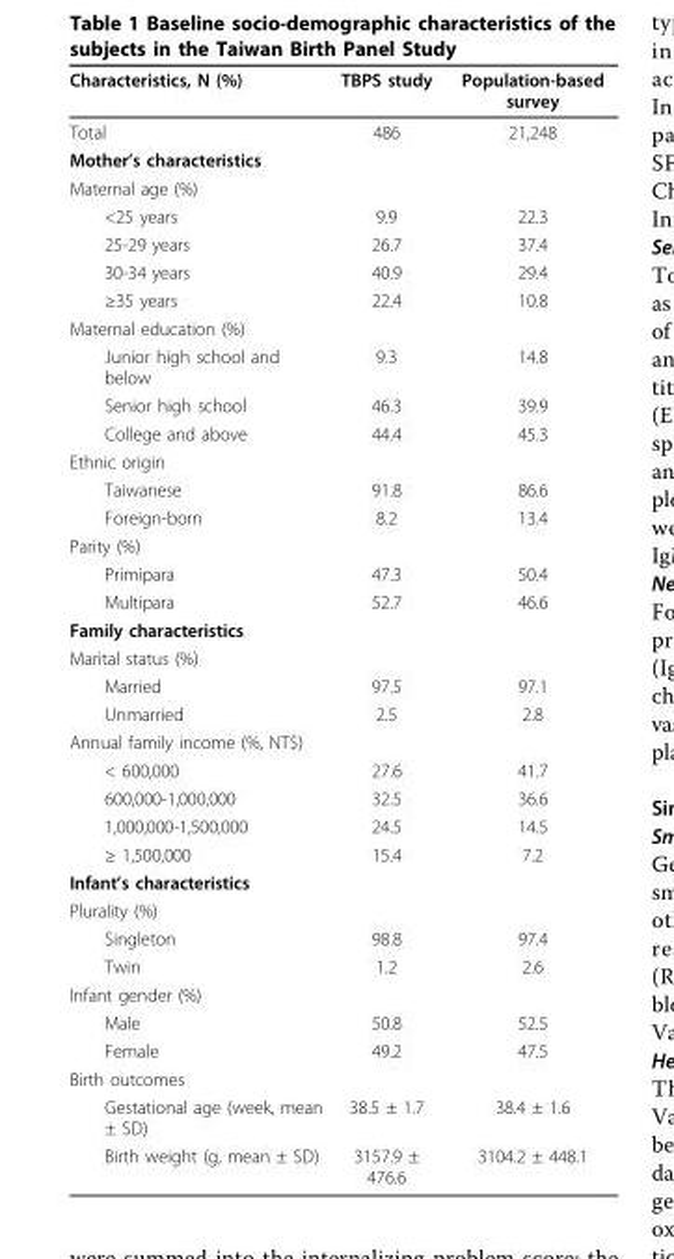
<table><thead><tr><td>Characteristics, N (%)</td><td>TBPS study</td><td>Population-based survey</td></tr></thead><tbody><tr><td>Total</td><td>486</td><td>21,248</td></tr><tr><td colspan="3">Mother’s characteristics</td></tr><tr><td colspan="3">Maternal age (%)</td></tr><tr><td>&lt;25 years</td><td>9.9</td><td>22.3</td></tr><tr><td>25-29 years</td><td>26.7</td><td>37.4</td></tr><tr><td>30-34 years</td><td>40.9</td><td>29.4</td></tr><tr><td>≥35 years</td><td>22.4</td><td>10.8</td></tr><tr><td colspan="3">Maternal education (%)</td></tr><tr><td>Junior high school and below</td><td>9.3</td><td>14.8</td></tr><tr><td>Senior high school</td><td>46.3</td><td>39.9</td></tr><tr><td>College and above</td><td>44.4</td><td>45.3</td></tr><tr><td colspan="3">Ethnic origin</td></tr><tr><td>Taiwanese</td><td>91.8</td><td>86.6</td></tr><tr><td>Foreign-born</td><td>8.2</td><td>13.4</td></tr><tr><td colspan="3">Parity (%)</td></tr><tr><td>Primipara</td><td>47.3</td><td>50.4</td></tr><tr><td>Multipara</td><td>52.7</td><td>46.6</td></tr><tr><td colspan="3">Family characteristics</td></tr><tr><td colspan="3">Marital status (%)</td></tr><tr><td>Married</td><td>97.5</td><td>97.1</td></tr><tr><td>Unmarried</td><td>2.5</td><td>2.8</td></tr><tr><td colspan="3">Annual family income (%, NT$)</td></tr><tr><td>&lt; 600,000</td><td>27.6</td><td>41.7</td></tr><tr><td>600,000-1,000,000</td><td>32.5</td><td>36.6</td></tr><tr><td>1,000,000-1,500,000</td><td>24.5</td><td>14.5</td></tr><tr><td>≥ 1,500,000</td><td>15.4</td><td>7.2</td></tr><tr><td colspan="3">Infant’s characteristics</td></tr><tr><td colspan="3">Plurality (%)</td></tr><tr><td>Singleton</td><td>98.8</td><td>97.4</td></tr><tr><td>Twin</td><td>1.2</td><td>2.6</td></tr><tr><td colspan="3">Infant gender (%)</td></tr><tr><td>Male</td><td>50.8</td><td>52.5</td></tr><tr><td>Female</td><td>49.2</td><td>47.5</td></tr><tr><td colspan="3">Birth outcomes</td></tr><tr><td>Gestational age (week, mean ± SD)</td><td>38.5 ± 1.7</td><td>38.4 ± 1.6</td></tr><tr><td>Birth weight (g, mean ± SD)</td><td>3157.9 ± 476.6</td><td>3104.2 ± 448.1</td></tr></tbody></table>